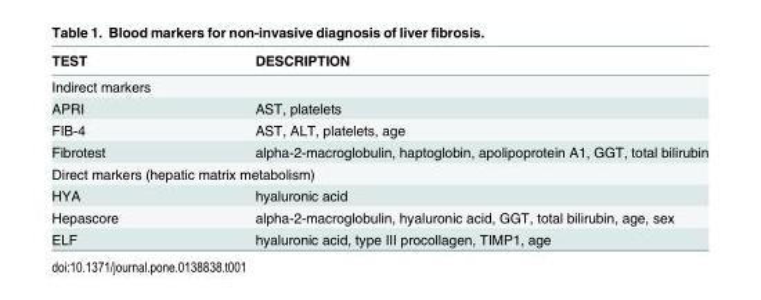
<table><thead><tr><td>TEST</td><td>DESCRIPTION</td></tr></thead><tbody><tr><td colspan="2">Indirect markers</td></tr><tr><td>APRI</td><td>AST, platelets</td></tr><tr><td>FIB-4</td><td>AST, ALT, platelets, age</td></tr><tr><td>Fibrotest</td><td>alpha-2-macroglobulin, haptoglobin, apolipoprotein A1, GGT, total bilirubin</td></tr><tr><td colspan="2">Direct markers (hepatic matrix metabolism)</td></tr><tr><td>HYA</td><td>hyaluronic acid</td></tr><tr><td>Hepascore</td><td>alpha-2-macroglobulin, hyaluronic acid, GGT, total bilirubin, age, sex</td></tr><tr><td>ELF</td><td>hyaluronic acid, type III procollagen, TIMP1, age</td></tr></tbody></table>